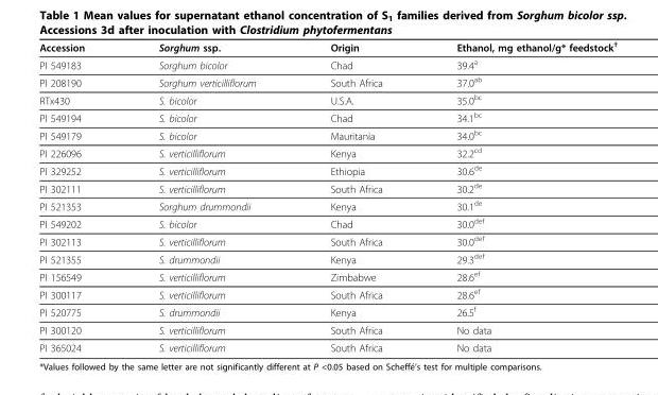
<table><thead><tr><td>Accession</td><td>Sorghum ssp.</td><td>Origin</td><td>Ethanol, mg ethanol/g* feedstock<sup>†</sup></td></tr></thead><tbody><tr><td>PI 549183</td><td>Sorghum bicolor</td><td>Chad</td><td>39.4<sup>a</sup></td></tr><tr><td>PI 208190</td><td>Sorghum verticilliflorum</td><td>South Africa</td><td>37.0<sup>ab</sup></td></tr><tr><td>RTx430</td><td>S. bicolor</td><td>U.S.A.</td><td>35.0<sup>bc</sup></td></tr><tr><td>PI 549194</td><td>S. bicolor</td><td>Chad</td><td>34.1<sup>bc</sup></td></tr><tr><td>PI 549179</td><td>S. bicolor</td><td>Mauritania</td><td>34.0<sup>bc</sup></td></tr><tr><td>PI 226096</td><td>S. verticilliflorum</td><td>Kenya</td><td>32.2<sup>cd</sup></td></tr><tr><td>PI 329252</td><td>S. verticilliflorum</td><td>Ethiopia</td><td>30.6<sup>de</sup></td></tr><tr><td>PI 302111</td><td>S. verticilliflorum</td><td>South Africa</td><td>30.2<sup>de</sup></td></tr><tr><td>PI 521353</td><td>Sorghum drummondii</td><td>Kenya</td><td>30.1<sup>de</sup></td></tr><tr><td>PI 549202</td><td>S. bicolor</td><td>Chad</td><td>30.0<sup>def</sup></td></tr><tr><td>PI 302113</td><td>S. verticilliflorum</td><td>South Africa</td><td>30.0<sup>def</sup></td></tr><tr><td>PI 521355</td><td>S. drummondii</td><td>Kenya</td><td>29.3<sup>def</sup></td></tr><tr><td>PI 156549</td><td>S. verticilliflorum</td><td>Zimbabwe</td><td>28.6<sup>ef</sup></td></tr><tr><td>PI 300117</td><td>S. verticilliflorum</td><td>South Africa</td><td>28.6<sup>ef</sup></td></tr><tr><td>PI 520775</td><td>S. drummondii</td><td>Kenya</td><td>26.5<sup>f</sup></td></tr><tr><td>PI 300120</td><td>S. verticilliflorum</td><td>South Africa</td><td>No data</td></tr><tr><td>PI 365024</td><td>S. verticilliflorum</td><td>South Africa</td><td>No data</td></tr></tbody></table>